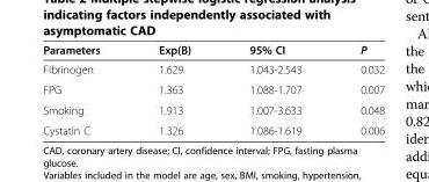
<table><thead><tr><td>Parameters</td><td>Exp(B)</td><td>95% CI</td><td>P</td></tr></thead><tbody><tr><td>Fibrinogen</td><td>1.629</td><td>1.043-2.543</td><td>0.032</td></tr><tr><td>FPG</td><td>1.363</td><td>1.088-1.707</td><td>0.007</td></tr><tr><td>Smoking</td><td>1.913</td><td>1.007-3.633</td><td>0.048</td></tr><tr><td>Cystatin C</td><td>1.326</td><td>1.086-1.619</td><td>0.006</td></tr></tbody></table>